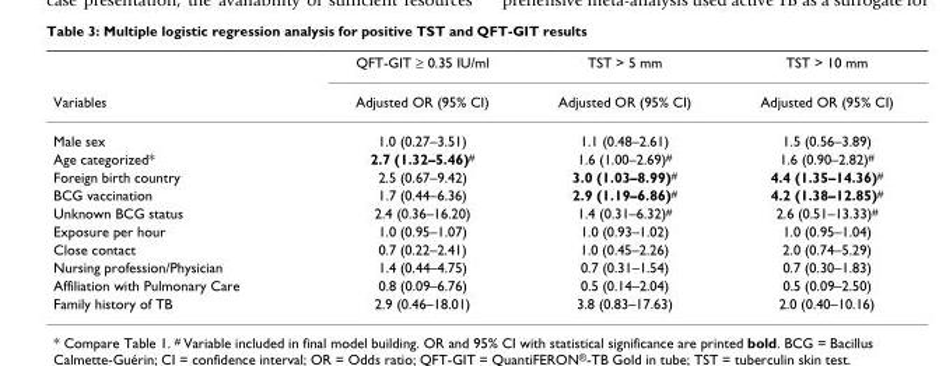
<table><thead><tr><td rowspan="2">Variables</td><td rowspan="2">QFT-GIT ≥ 0.35 IU/ml Adjusted OR (95% CI)</td><td rowspan="2">TST &gt; 5 mm Adjusted OR (95% CI)</td><td rowspan="2">TST &gt; 10 mm Adjusted OR (95% CI)</td></tr><tr></tr></thead><tbody><tr><td>Male sex</td><td>1.0 (0.27–3.51)</td><td>1.1 (0.48–2.61)</td><td>1.5 (0.56–3.89)</td></tr><tr><td>Age categorized*</td><td>2.7 (1.32–5.46)<sup>#</sup></td><td>1.6 (1.00–2.69)<sup>#</sup></td><td>1.6 (0.90–2.82)<sup>#</sup></td></tr><tr><td>Foreign birth country</td><td>2.5 (0.67–9.42)</td><td>3.0 (1.03–8.99)<sup>#</sup></td><td>4.4 (1.35–14.36)<sup>#</sup></td></tr><tr><td>BCG vaccination</td><td>1.7 (0.44–6.36)</td><td>2.9 (1.19–6.86)<sup>#</sup></td><td>4.2 (1.38–12.85)<sup>#</sup></td></tr><tr><td>Unknown BCG status</td><td>2.4 (0.36–16.20)</td><td>1.4 (0.31–6.32)<sup>#</sup></td><td>2.6 (0.51–13.33)<sup>#</sup></td></tr><tr><td>Exposure per hour</td><td>1.0 (0.95–1.07)</td><td>1.0 (0.93–1.02)</td><td>1.0 (0.95–1.04)</td></tr><tr><td>Close contact</td><td>0.7 (0.22–2.41)</td><td>1.0 (0.45–2.26)</td><td>2.0 (0.74–5.29)</td></tr><tr><td>Nursing profession/Physician</td><td>1.4 (0.44–4.75)</td><td>0.7 (0.31–1.54)</td><td>0.7 (0.30–1.83)</td></tr><tr><td>Affiliation with Pulmonary Care</td><td>0.8 (0.09–6.76)</td><td>0.5 (0.14–2.04)</td><td>0.5 (0.09–2.50)</td></tr><tr><td>Family history of TB</td><td>2.9 (0.46–18.01)</td><td>3.8 (0.83–17.63)</td><td>2.0 (0.40–10.16)</td></tr></tbody></table>